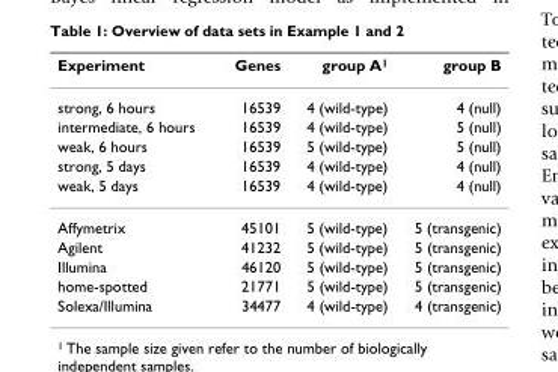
<table><thead><tr><td>Experiment</td><td>Genes</td><td>group A<sup>1</sup></td><td>group B</td></tr></thead><tbody><tr><td>strong, 6 hours</td><td>16539</td><td>4 (wild-type)</td><td>4 (null)</td></tr><tr><td>intermediate, 6 hours</td><td>16539</td><td>4 (wild-type)</td><td>5 (null)</td></tr><tr><td>weak, 6 hours</td><td>16539</td><td>5 (wild-type)</td><td>5 (null)</td></tr><tr><td>strong, 5 days</td><td>16539</td><td>4 (wild-type)</td><td>4 (null)</td></tr><tr><td>weak, 5 days</td><td>16539</td><td>4 (wild-type)</td><td>4 (null)</td></tr><tr><td>Affymetrix</td><td>45101</td><td>5 (wild-type)</td><td>5 (transgenic)</td></tr><tr><td>Agilent</td><td>41232</td><td>5 (wild-type)</td><td>5 (transgenic)</td></tr><tr><td>Illumina</td><td>46120</td><td>5 (wild-type)</td><td>5 (transgenic)</td></tr><tr><td>home-spotted</td><td>21771</td><td>5 (wild-type)</td><td>5 (transgenic)</td></tr><tr><td>Solexa/Illumina</td><td>34477</td><td>4 (wild-type)</td><td>4 (transgenic)</td></tr></tbody></table>